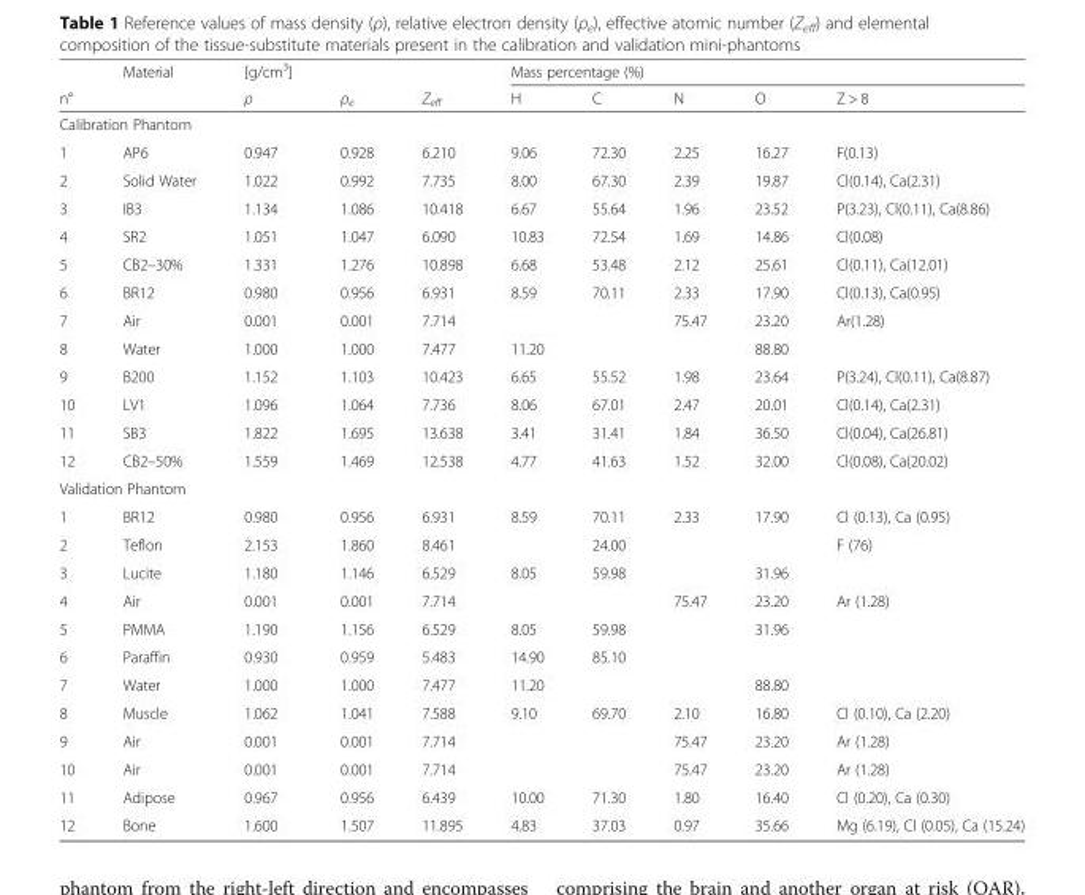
<table><thead><tr><td rowspan="2">n°</td><td rowspan="2">Material</td><td rowspan="2">[g/cm<sup>3</sup>] ρ</td><td rowspan="2">ρ<sub>e</sub></td><td rowspan="2">Z<sub>eff</sub></td><td colspan="5">Mass percentage (%)</td></tr><tr><td>H</td><td>C</td><td>N</td><td>O</td><td>Z &gt; 8</td></tr></thead><tbody><tr><td colspan="10">Calibration Phantom</td></tr><tr><td>1</td><td>AP6</td><td>0.947</td><td>0.928</td><td>6.210</td><td>9.06</td><td>72.30</td><td>2.25</td><td>16.27</td><td>F(0.13)</td></tr><tr><td>2</td><td>Solid Water</td><td>1.022</td><td>0.992</td><td>7.735</td><td>8.00</td><td>67.30</td><td>2.39</td><td>19.87</td><td>Cl(0.14), Ca(2.31)</td></tr><tr><td>3</td><td>IB3</td><td>1.134</td><td>1.086</td><td>10.418</td><td>6.67</td><td>55.64</td><td>1.96</td><td>23.52</td><td>P(3.23), Cl(0.11), Ca(8.86)</td></tr><tr><td>4</td><td>SR2</td><td>1.051</td><td>1.047</td><td>6.090</td><td>10.83</td><td>72.54</td><td>1.69</td><td>14.86</td><td>Cl(0.08)</td></tr><tr><td>5</td><td>CB2–30%</td><td>1.331</td><td>1.276</td><td>10.898</td><td>6.68</td><td>53.48</td><td>2.12</td><td>25.61</td><td>Cl(0.11), Ca(12.01)</td></tr><tr><td>6</td><td>BR12</td><td>0.980</td><td>0.956</td><td>6.931</td><td>8.59</td><td>70.11</td><td>2.33</td><td>17.90</td><td>Cl(0.13), Ca(0.95)</td></tr><tr><td>7</td><td>Air</td><td>0.001</td><td>0.001</td><td>7.714</td><td></td><td></td><td>75.47</td><td>23.20</td><td>Ar(1.28)</td></tr><tr><td>8</td><td>Water</td><td>1.000</td><td>1.000</td><td>7.477</td><td>11.20</td><td></td><td></td><td>88.80</td><td></td></tr><tr><td>9</td><td>B200</td><td>1.152</td><td>1.103</td><td>10.423</td><td>6.65</td><td>55.52</td><td>1.98</td><td>23.64</td><td>P(3.24), Cl(0.11), Ca(8.87)</td></tr><tr><td>10</td><td>LV1</td><td>1.096</td><td>1.064</td><td>7.736</td><td>8.06</td><td>67.01</td><td>2.47</td><td>20.01</td><td>Cl(0.14), Ca(2.31)</td></tr><tr><td>11</td><td>SB3</td><td>1.822</td><td>1.695</td><td>13.638</td><td>3.41</td><td>31.41</td><td>1.84</td><td>36.50</td><td>Cl(0.04), Ca(26.81)</td></tr><tr><td>12</td><td>CB2–50%</td><td>1.559</td><td>1.469</td><td>12.538</td><td>4.77</td><td>41.63</td><td>1.52</td><td>32.00</td><td>Cl(0.08), Ca(20.02)</td></tr><tr><td colspan="10">Validation Phantom</td></tr><tr><td>1</td><td>BR12</td><td>0.980</td><td>0.956</td><td>6.931</td><td>8.59</td><td>70.11</td><td>2.33</td><td>17.90</td><td>Cl (0.13), Ca (0.95)</td></tr><tr><td>2</td><td>Teflon</td><td>2.153</td><td>1.860</td><td>8.461</td><td></td><td>24.00</td><td></td><td></td><td>F (76)</td></tr><tr><td>3</td><td>Lucite</td><td>1.180</td><td>1.146</td><td>6.529</td><td>8.05</td><td>59.98</td><td></td><td>31.96</td><td></td></tr><tr><td>4</td><td>Air</td><td>0.001</td><td>0.001</td><td>7.714</td><td></td><td></td><td>75.47</td><td>23.20</td><td>Ar (1.28)</td></tr><tr><td>5</td><td>PMMA</td><td>1.190</td><td>1.156</td><td>6.529</td><td>8.05</td><td>59.98</td><td></td><td>31.96</td><td></td></tr><tr><td>6</td><td>Paraffin</td><td>0.930</td><td>0.959</td><td>5.483</td><td>14.90</td><td>85.10</td><td></td><td></td><td></td></tr><tr><td>7</td><td>Water</td><td>1.000</td><td>1.000</td><td>7.477</td><td>11.20</td><td></td><td></td><td>88.80</td><td></td></tr><tr><td>8</td><td>Muscle</td><td>1.062</td><td>1.041</td><td>7.588</td><td>9.10</td><td>69.70</td><td>2.10</td><td>16.80</td><td>Cl (0.10), Ca (2.20)</td></tr><tr><td>9</td><td>Air</td><td>0.001</td><td>0.001</td><td>7.714</td><td></td><td></td><td>75.47</td><td>23.20</td><td>Ar (1.28)</td></tr><tr><td>10</td><td>Air</td><td>0.001</td><td>0.001</td><td>7.714</td><td></td><td></td><td>75.47</td><td>23.20</td><td>Ar (1.28)</td></tr><tr><td>11</td><td>Adipose</td><td>0.967</td><td>0.956</td><td>6.439</td><td>10.00</td><td>71.30</td><td>1.80</td><td>16.40</td><td>Cl (0.20), Ca (0.30)</td></tr><tr><td>12</td><td>Bone</td><td>1.600</td><td>1.507</td><td>11.895</td><td>4.83</td><td>37.03</td><td>0.97</td><td>35.66</td><td>Mg (6.19), Cl (0.05), Ca (15.24)</td></tr></tbody></table>